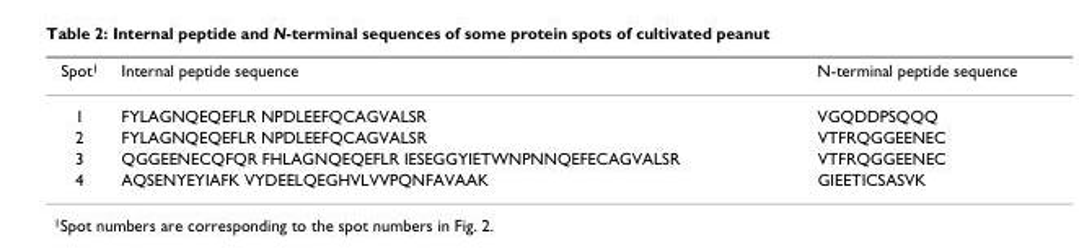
<table><thead><tr><td>Spot1</td><td>Internal peptide sequence</td><td>N-terminal peptide sequence</td></tr></thead><tbody><tr><td>1</td><td>FYLAGNQEQEFLR NPDLEEFQCAGVALSR</td><td>VGQDDPSQQQ</td></tr><tr><td>2</td><td>FYLAGNQEQEFLR NPDLEEFQCAGVALSR</td><td>VTFRQGGEENEC</td></tr><tr><td>3</td><td>QGGEENECQFQR FHLAGNQEQEFLR IESEGGYIETWNPNNQEFECAGVALSR</td><td>VTFRQGGEENEC</td></tr><tr><td>4</td><td>AQSENYEYIAFK VYDEELQEGHVLVVPQNFAVAAK</td><td>GIEETICSASVK</td></tr></tbody></table>